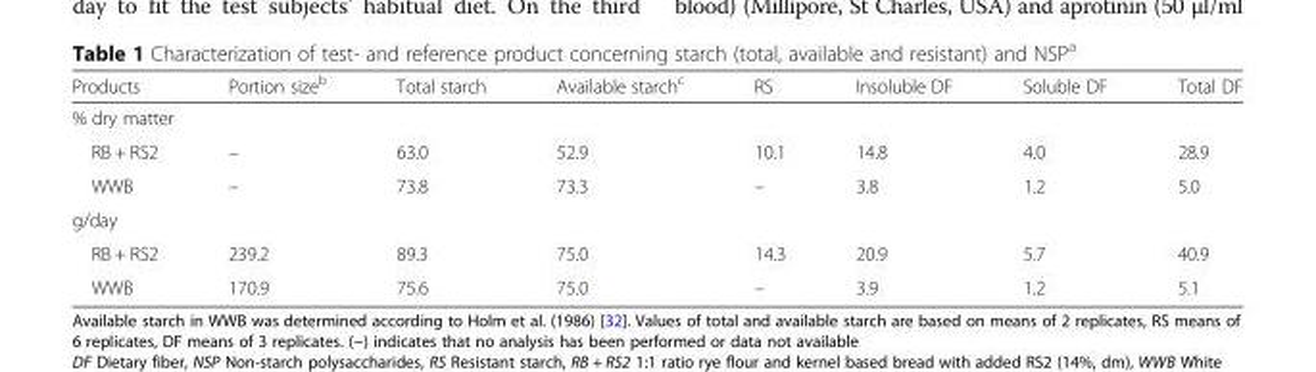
<table><thead><tr><td>Products</td><td>Portion size<sup>b</sup></td><td>Total starch</td><td>Available starch<sup>c</sup></td><td>RS</td><td>Insoluble DF</td><td>Soluble DF</td><td>Total DF</td></tr></thead><tbody><tr><td colspan="8">% dry matter</td></tr><tr><td>RB + RS2</td><td>–</td><td>63.0</td><td>52.9</td><td>10.1</td><td>14.8</td><td>4.0</td><td>28.9</td></tr><tr><td>WWB</td><td>–</td><td>73.8</td><td>73.3</td><td>–</td><td>3.8</td><td>1.2</td><td>5.0</td></tr><tr><td colspan="8">g/day</td></tr><tr><td>RB + RS2</td><td>239.2</td><td>89.3</td><td>75.0</td><td>14.3</td><td>20.9</td><td>5.7</td><td>40.9</td></tr><tr><td>WWB</td><td>170.9</td><td>75.6</td><td>75.0</td><td>–</td><td>3.9</td><td>1.2</td><td>5.1</td></tr></tbody></table>